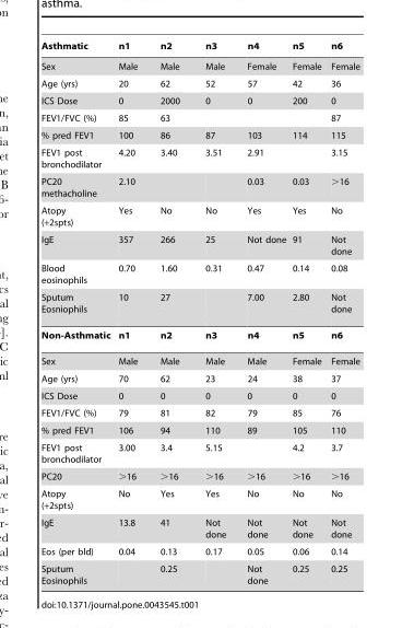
<table><thead><tr><td>Asthmatic</td><td>n1</td><td>n2</td><td>n3</td><td>n4</td><td>n5</td><td>n6</td></tr></thead><tbody><tr><td>Sex</td><td>Male</td><td>Male</td><td>Male</td><td>Female</td><td>Female</td><td>Female</td></tr><tr><td>Age (yrs)</td><td>20</td><td>62</td><td>52</td><td>57</td><td>42</td><td>36</td></tr><tr><td>ICS Dose</td><td>0</td><td>2000</td><td>0</td><td>0</td><td>200</td><td>0</td></tr><tr><td>FEV1/FVC (%)</td><td>85</td><td>63</td><td></td><td></td><td></td><td>87</td></tr><tr><td>% pred FEV1</td><td>100</td><td>86</td><td>87</td><td>103</td><td>114</td><td>115</td></tr><tr><td>FEV1 post bronchodilator</td><td>4.20</td><td>3.40</td><td>3.51</td><td>2.91</td><td></td><td>3.15</td></tr><tr><td>PC20 methacholine</td><td>2.10</td><td></td><td></td><td>0.03</td><td>0.03</td><td>&gt;16</td></tr><tr><td>Atopy (+2spts)</td><td>Yes</td><td>No</td><td>No</td><td>Yes</td><td>Yes</td><td>No</td></tr><tr><td>IgE</td><td>357</td><td>266</td><td>25</td><td>Not done</td><td>91</td><td>Not done</td></tr><tr><td>Blood eosinophils</td><td>0.70</td><td>1.60</td><td>0.31</td><td>0.47</td><td>0.14</td><td>0.08</td></tr><tr><td>Sputum Eosniophils</td><td>10</td><td>27</td><td></td><td>7.00</td><td>2.80</td><td>Not done</td></tr><tr><td>Non-Asthmatic</td><td>n1</td><td>n2</td><td>n3</td><td>n4</td><td>n5</td><td>n6</td></tr><tr><td>Sex</td><td>Male</td><td>Male</td><td>Male</td><td>Male</td><td>Female</td><td>Female</td></tr><tr><td>Age (yrs)</td><td>70</td><td>62</td><td>23</td><td>24</td><td>38</td><td>37</td></tr><tr><td>ICS Dose</td><td>0</td><td>0</td><td>0</td><td>0</td><td>0</td><td>0</td></tr><tr><td>FEV1/FVC (%)</td><td>79</td><td>81</td><td>82</td><td>79</td><td>85</td><td>76</td></tr><tr><td>% pred FEV1</td><td>106</td><td>94</td><td>110</td><td>89</td><td>105</td><td>110</td></tr><tr><td>FEV1 post bronchodilator</td><td>3.00</td><td>3.4</td><td>5.15</td><td></td><td>4.2</td><td>3.7</td></tr><tr><td>PC20</td><td>&gt;16</td><td>&gt;16</td><td>&gt;16</td><td>&gt;16</td><td>&gt;16</td><td>&gt;16</td></tr><tr><td>Atopy (+2spts)</td><td>No</td><td>Yes</td><td>Yes</td><td>No</td><td>No</td><td>No</td></tr><tr><td>IgE</td><td>13.8</td><td>41</td><td>Not done</td><td>Not done</td><td>Not done</td><td>Not done</td></tr><tr><td>Eos (per bld)</td><td>0.04</td><td>0.13</td><td>0.17</td><td>0.05</td><td>0.06</td><td>0.14</td></tr><tr><td>Sputum Eosinophils</td><td></td><td>0.25</td><td></td><td>Not done</td><td>0.25</td><td>0.25</td></tr></tbody></table>